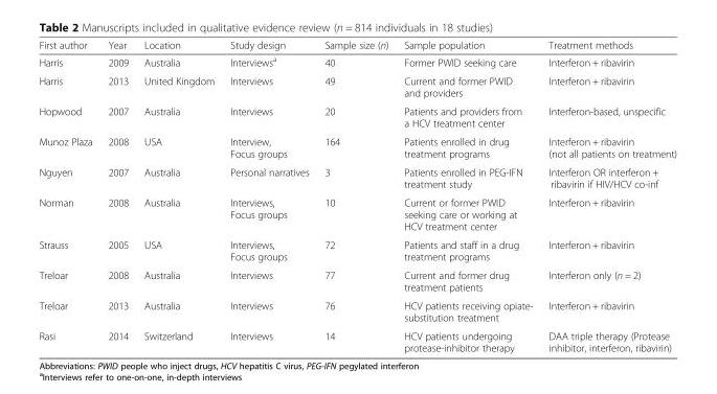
<table><thead><tr><td>First author</td><td>Year</td><td>Location</td><td>Study design</td><td>Sample size (n)</td><td>Sample population</td><td>Treatment methods</td></tr></thead><tbody><tr><td>Harris</td><td>2009</td><td>Australia</td><td>Interviews<sup>a</sup></td><td>40</td><td>Former PWID seeking care</td><td>Interferon + ribavirin</td></tr><tr><td>Harris</td><td>2013</td><td>United Kingdom</td><td>Interviews</td><td>49</td><td>Current and former PWID and providers</td><td>Interferon + ribavirin</td></tr><tr><td>Hopwood</td><td>2007</td><td>Australia</td><td>Interviews</td><td>20</td><td>Patients and providers from a HCV treatment center</td><td>Interferon-based, unspecific</td></tr><tr><td>Munoz Plaza</td><td>2008</td><td>USA</td><td>Interview, Focus groups</td><td>164</td><td>Patients enrolled in drug treatment programs</td><td>Interferon + ribavirin (not all patients on treatment)</td></tr><tr><td>Nguyen</td><td>2007</td><td>Australia</td><td>Personal narratives</td><td>3</td><td>Patients enrolled in PEG-IFN treatment study</td><td>Interferon OR interferon + ribavirin if HIV/HCV co-inf</td></tr><tr><td>Norman</td><td>2008</td><td>Australia</td><td>Interviews, Focus groups</td><td>10</td><td>Current or former PWID seeking care or working at HCV treatment center</td><td>Interferon + ribavirin</td></tr><tr><td>Strauss</td><td>2005</td><td>USA</td><td>Interviews, Focus groups</td><td>72</td><td>Patients and staff in a drug treatment programs</td><td>Interferon + ribavirin</td></tr><tr><td>Treloar</td><td>2008</td><td>Australia</td><td>Interviews</td><td>77</td><td>Current and former drug treatment patients</td><td>Interferon only (n = 2)</td></tr><tr><td>Treloar</td><td>2013</td><td>Australia</td><td>Interviews</td><td>76</td><td>HCV patients receiving opiate- substitution treatment</td><td>Interferon + ribavirin</td></tr><tr><td>Rasi</td><td>2014</td><td>Switzerland</td><td>Interviews</td><td>14</td><td>HCV patients undergoing protease-inhibitor therapy</td><td>DAA triple therapy (Protease inhibitor, interferon, ribavirin)</td></tr></tbody></table>